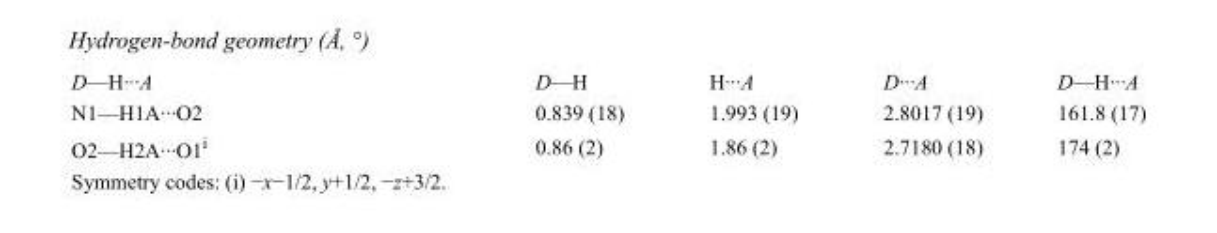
<table><tbody><tr><td>D—H···A</td><td>D—H</td><td>H···A</td><td>D···A</td><td>D—H···A</td></tr><tr><td>N1—H1A···O2</td><td>0.839 (18)</td><td>1.993 (19)</td><td>2.8017 (19)</td><td>161.8 (17)</td></tr><tr><td>O2—H2A···O1<sup>i</sup></td><td>0.86 (2)</td><td>1.86 (2)</td><td>2.7180 (18)</td><td>174 (2)</td></tr></tbody></table>